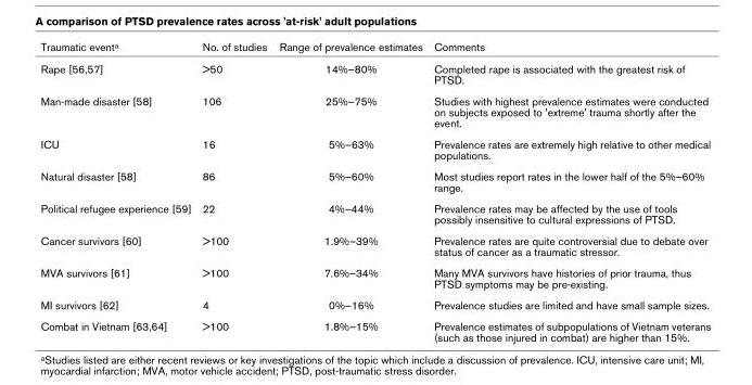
<table><thead><tr><td>Traumatic event<sup>a</sup></td><td>No. of studies</td><td>Range of prevalence estimates</td><td>Comments</td></tr></thead><tbody><tr><td>Rape [56,57]</td><td>&gt;50</td><td>14%–80%</td><td>Completed rape is associated with the greatest risk of PTSD.</td></tr><tr><td>Man-made disaster [58]</td><td>106</td><td>25%–75%</td><td>Studies with highest prevalence estimates were conducted on subjects exposed to &#x27;extreme&#x27; trauma shortly after the event.</td></tr><tr><td>ICU</td><td>16</td><td>5%–63%</td><td>Prevalence rates are extremely high relative to other medical populations.</td></tr><tr><td>Natural disaster [58]</td><td>86</td><td>5%–60%</td><td>Most studies report rates in the lower half of the 5%–60% range.</td></tr><tr><td>Political refugee experience [59]</td><td>22</td><td>4%–44%</td><td>Prevalence rates may be affected by the use of tools possibly insensitive to cultural expressions of PTSD.</td></tr><tr><td>Cancer survivors [60]</td><td>&gt;100</td><td>1.9%–39%</td><td>Prevalence rates are quite controversial due to debate over status of cancer as a traumatic stressor.</td></tr><tr><td>MVA survivors [61]</td><td>&gt;100</td><td>7.6%–34%</td><td>Many MVA survivors have histories of prior trauma, thus PTSD symptoms may be pre-existing.</td></tr><tr><td>MI survivors [62]</td><td>4</td><td>0%–16%</td><td>Prevalence studies are limited and have small sample sizes.</td></tr><tr><td>Combat in Vietnam [63,64]</td><td>&gt;100</td><td>1.8%–15%</td><td>Prevalence estimates of subpopulations of Vietnam veterans (such as those injured in combat) are higher than 15%.</td></tr></tbody></table>